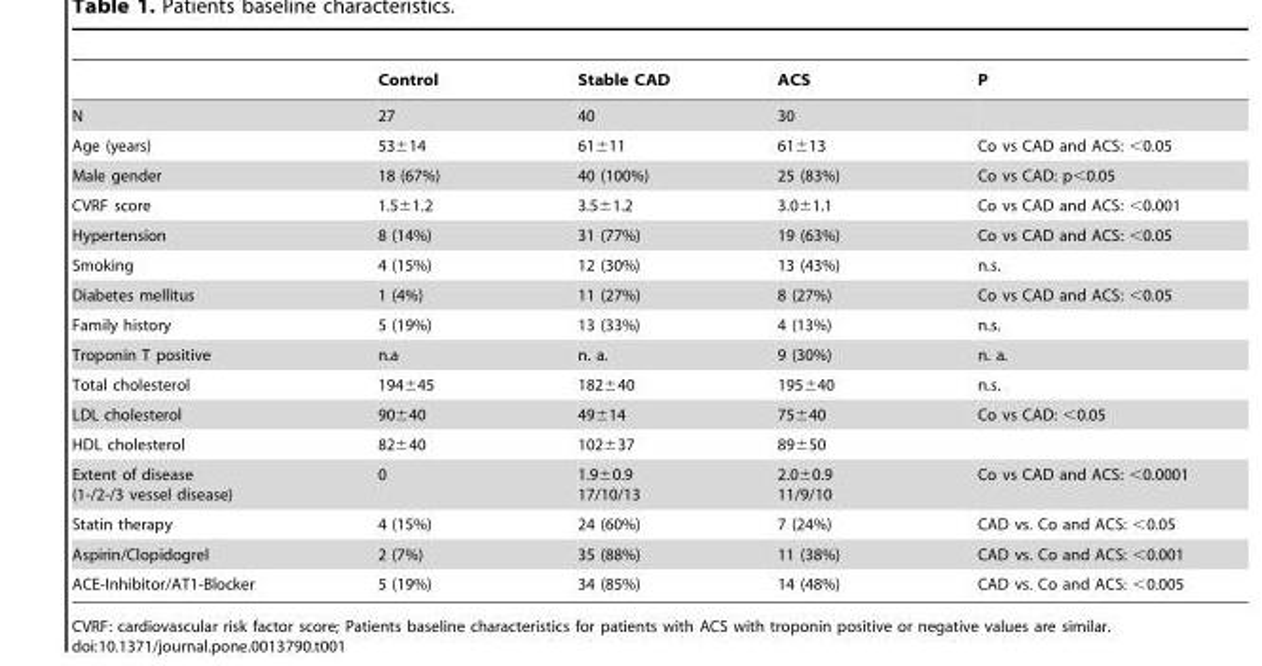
<table><thead><tr><td></td><td>Control</td><td>Stable CAD</td><td>ACS</td><td>P</td></tr></thead><tbody><tr><td>N</td><td>27</td><td>40</td><td>30</td><td></td></tr><tr><td>Age (years)</td><td>53±14</td><td>61±11</td><td>61±13</td><td>Co vs CAD and ACS: &lt;0.05</td></tr><tr><td>Male gender</td><td>18 (67%)</td><td>40 (100%)</td><td>25 (83%)</td><td>Co vs CAD: p&lt;0.05</td></tr><tr><td>CVRF score</td><td>1.5±1.2</td><td>3.5±1.2</td><td>3.0±1.1</td><td>Co vs CAD and ACS: &lt;0.001</td></tr><tr><td>Hypertension</td><td>8 (14%)</td><td>31 (77%)</td><td>19 (63%)</td><td>Co vs CAD and ACS: &lt;0.05</td></tr><tr><td>Smoking</td><td>4 (15%)</td><td>12 (30%)</td><td>13 (43%)</td><td>n.s.</td></tr><tr><td>Diabetes mellitus</td><td>1 (4%)</td><td>11 (27%)</td><td>8 (27%)</td><td>Co vs CAD and ACS: &lt;0.05</td></tr><tr><td>Family history</td><td>5 (19%)</td><td>13 (33%)</td><td>4 (13%)</td><td>n.s.</td></tr><tr><td>Troponin T positive</td><td>n.a</td><td>n. a.</td><td>9 (30%)</td><td>n. a.</td></tr><tr><td>Total cholesterol</td><td>194±45</td><td>182±40</td><td>195±40</td><td>n.s.</td></tr><tr><td>LDL cholesterol</td><td>90±40</td><td>49±14</td><td>75±40</td><td>Co vs CAD: &lt;0.05</td></tr><tr><td>HDL cholesterol</td><td>82±40</td><td>102±37</td><td>89±50</td><td></td></tr><tr><td>Extent of disease (1-/2-/3 vessel disease)</td><td>0</td><td>1.9±0.9 17/10/13</td><td>2.0±0.9 11/9/10</td><td>Co vs CAD and ACS: &lt;0.0001</td></tr><tr><td>Statin therapy</td><td>4 (15%)</td><td>24 (60%)</td><td>7 (24%)</td><td>CAD vs. Co and ACS: &lt;0.05</td></tr><tr><td>Aspirin/Clopidogrel</td><td>2 (7%)</td><td>35 (88%)</td><td>11 (38%)</td><td>CAD vs. Co and ACS: &lt;0.001</td></tr><tr><td>ACE-Inhibitor/AT1-Blocker</td><td>5 (19%)</td><td>34 (85%)</td><td>14 (48%)</td><td>CAD vs. Co and ACS: &lt;0.005</td></tr></tbody></table>